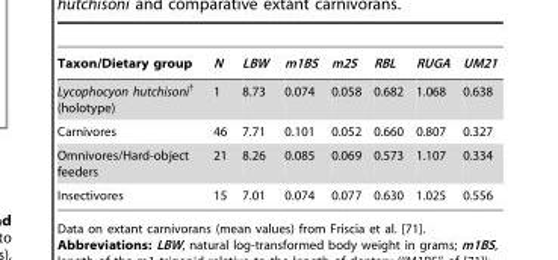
<table><thead><tr><td>Taxon/Dietary group</td><td>N</td><td>LBW</td><td>m1BS</td><td>m2S</td><td>RBL</td><td>RUGA</td><td>UM21</td></tr></thead><tbody><tr><td>Lycophocyon hutchisoni<sup>†</sup> (holotype)</td><td>1</td><td>8.73</td><td>0.074</td><td>0.058</td><td>0.682</td><td>1.068</td><td>0.638</td></tr><tr><td>Carnivores</td><td>46</td><td>7.71</td><td>0.101</td><td>0.052</td><td>0.660</td><td>0.807</td><td>0.327</td></tr><tr><td>Omnivores/Hard-object feeders</td><td>21</td><td>8.26</td><td>0.085</td><td>0.069</td><td>0.573</td><td>1.107</td><td>0.334</td></tr><tr><td>Insectivores</td><td>15</td><td>7.01</td><td>0.074</td><td>0.077</td><td>0.630</td><td>1.025</td><td>0.556</td></tr></tbody></table>